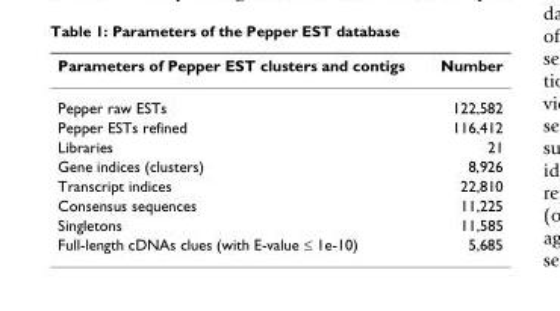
<table><thead><tr><td>Parameters of Pepper EST clusters and contigs</td><td>Number</td></tr></thead><tbody><tr><td>Pepper raw ESTs</td><td>122,582</td></tr><tr><td>Pepper ESTs refined</td><td>116,412</td></tr><tr><td>Libraries</td><td>21</td></tr><tr><td>Gene indices (clusters)</td><td>8,926</td></tr><tr><td>Transcript indices</td><td>22,810</td></tr><tr><td>Consensus sequences</td><td>11,225</td></tr><tr><td>Singletons</td><td>11,585</td></tr><tr><td>Full-length cDNAs clues (with E-value ≤ 1e-10)</td><td>5,685</td></tr></tbody></table>